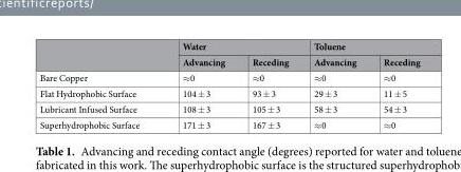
<table><thead><tr><td rowspan="2"></td><td colspan="2">Water</td><td colspan="2">Toluene</td></tr><tr><td>Advancing</td><td>Receding</td><td>Advancing</td><td>Receding</td></tr></thead><tbody><tr><td>Bare Copper</td><td>≈0</td><td>≈0</td><td>≈0</td><td>≈0</td></tr><tr><td>Flat Hydrophobic Surface</td><td>104 ± 3</td><td>93 ± 3</td><td>29 ± 3</td><td>11 ± 5</td></tr><tr><td>Lubricant Infused Surface</td><td>108 ± 3</td><td>105 ± 3</td><td>58 ± 3</td><td>54 ± 3</td></tr><tr><td>Superhydrophobic Surface</td><td>171 ± 3</td><td>167 ± 3</td><td>≈0</td><td>≈0</td></tr></tbody></table>